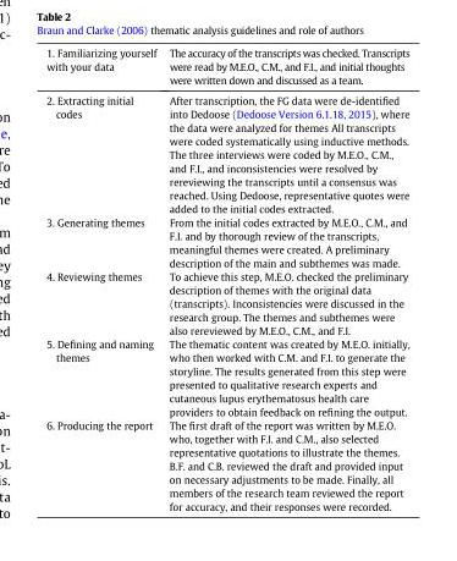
<table><thead><tr><td>1. Familiarizing yourself with your data</td><td>The accuracy of the transcripts was checked. Transcripts were read by M.E.O., C.M., and F.I., and initial thoughts were written down and discussed as a team.</td></tr></thead><tbody><tr><td>2. Extracting initial codes</td><td>After transcription, the FG data were de-identified into Dedoose (Dedoose Version 6.1.18, 2015), where the data were analyzed for themes All transcripts were coded systematically using inductive methods. The three interviews were coded by M.E.O., C.M., and F.I., and inconsistencies were resolved by rereviewing the transcripts until a consensus was reached. Using Dedoose, representative quotes were added to the initial codes extracted.</td></tr><tr><td>3. Generating themes</td><td>From the initial codes extracted by M.E.O., C.M., and F.I. and by thorough review of the transcripts, meaningful themes were created. A preliminary description of the main and subthemes was made.</td></tr><tr><td>4. Reviewing themes</td><td>To achieve this step, M.E.O. checked the preliminary description of themes with the original data (transcripts). Inconsistencies were discussed in the research group. The themes and subthemes were also rereviewed by M.E.O., C.M., and F.I.</td></tr><tr><td>5. Defining and naming themes</td><td>The thematic content was created by M.E.O. initially, who then worked with C.M. and F.I. to generate the storyline. The results generated from this step were presented to qualitative research experts and cutaneous lupus erythematosus health care providers to obtain feedback on refining the output.</td></tr><tr><td>6. Producing the report</td><td>The first draft of the report was written by M.E.O. who, together with F.I. and C.M., also selected representative quotations to illustrate the themes. B.F. and C.B. reviewed the draft and provided input on necessary adjustments to be made. Finally, all members of the research team reviewed the report for accuracy, and their responses were recorded.</td></tr></tbody></table>